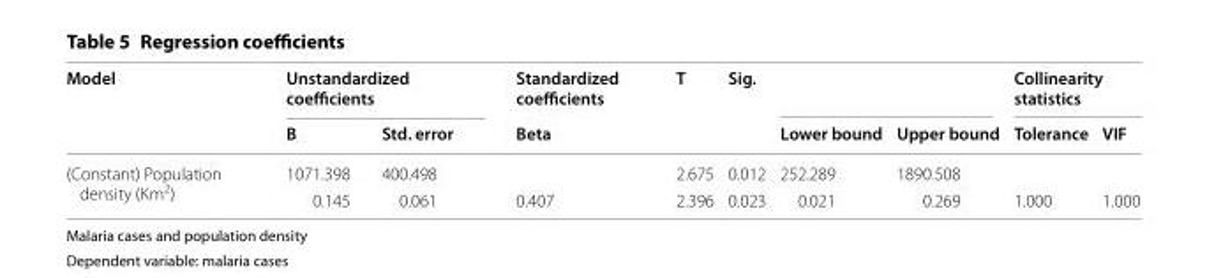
<table><thead><tr><td rowspan="2">Model</td><td colspan="2">Unstandardized coefficients</td><td rowspan="2">Standardized coefficients Beta</td><td rowspan="2">T</td><td rowspan="2">Sig.</td><td rowspan="2">Lower bound</td><td rowspan="2">Upper bound</td><td colspan="2">Collinearity statistics</td></tr><tr><td>B</td><td>Std. error</td><td>Tolerance</td><td>VIF</td></tr></thead><tbody><tr><td rowspan="2">(Constant) Population density (Km<sup>2</sup>)</td><td>1071.398</td><td>400.498</td><td></td><td>2.675</td><td>0.012</td><td>252.289</td><td>1890.508</td><td></td><td></td></tr><tr><td>0.145</td><td>0.061</td><td>0.407</td><td>2.396</td><td>0.023</td><td>0.021</td><td>0.269</td><td>1.000</td><td>1.000</td></tr></tbody></table>